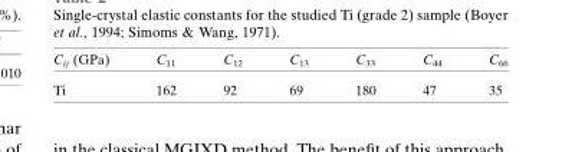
<table><thead><tr><td>C<sub>ij</sub> (GPa)</td><td>C<sub>11</sub></td><td>C<sub>12</sub></td><td>C<sub>13</sub></td><td>C<sub>33</sub></td><td>C<sub>44</sub></td><td>C<sub>66</sub></td></tr></thead><tbody><tr><td>Ti</td><td>162</td><td>92</td><td>69</td><td>180</td><td>47</td><td>35</td></tr></tbody></table>